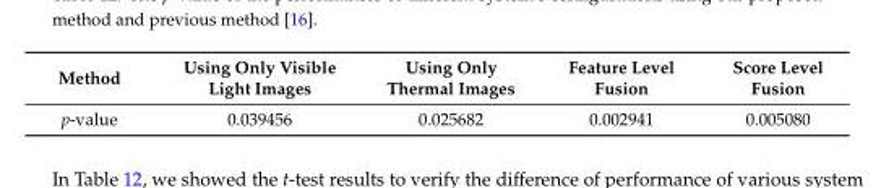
<table><thead><tr><td>Method</td><td>Using Only Visible Light Images</td><td>Using Only Thermal Images</td><td>Feature Level Fusion</td><td>Score Level Fusion</td></tr></thead><tbody><tr><td>p-value</td><td>0.039456</td><td>0.025682</td><td>0.002941</td><td>0.005080</td></tr></tbody></table>